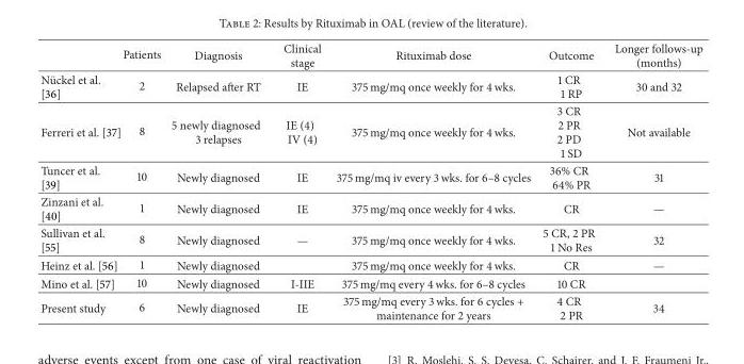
<table><thead><tr><td></td><td>Patients</td><td>Diagnosis</td><td>Clinical stage</td><td>Rituximab dose</td><td>Outcome</td><td>Longer follows-up (months)</td></tr></thead><tbody><tr><td>N¨uckel et al. [36]</td><td>2</td><td>Relapsed after RT</td><td>IE</td><td>375 mg/mq once weekly for 4 wks.</td><td>1 CR 1 RP</td><td>30 and 32</td></tr><tr><td>Ferreri et al. [37]</td><td>8</td><td>5 newly diagnosed 3 relapses</td><td>IE (4) IV (4)</td><td>375 mg/mq once weekly for 4 wks.</td><td>3 CR 2 PR 2 PD 1 SD</td><td>Not available</td></tr><tr><td>Tuncer et al. [39]</td><td>10</td><td>Newly diagnosed</td><td>IE</td><td>375 mg/mq iv every 3 wks. for 6–8 cycles</td><td>36% CR 64% PR</td><td>31</td></tr><tr><td>Zinzani et al. [40]</td><td>1</td><td>Newly diagnosed</td><td>IE</td><td>375 mg/mq once weekly for 4 wks.</td><td>CR</td><td>—</td></tr><tr><td>Sullivan et al. [55]</td><td>8</td><td>Newly diagnosed</td><td>—</td><td>375 mg/mq once weekly for 4 wks.</td><td>5 CR, 2 PR 1 No Res</td><td>32</td></tr><tr><td>Heinz et al. [56]</td><td>1</td><td>Newly diagnosed</td><td></td><td>375 mg/mq once weekly for 4 wks.</td><td>CR</td><td>—</td></tr><tr><td>Mino et al. [57]</td><td>10</td><td>Newly diagnosed</td><td>I-IIE</td><td>375 mg/mq every 4 wks. for 6–8 cycles</td><td>10 CR</td><td></td></tr><tr><td>Present study</td><td>6</td><td>Newly diagnosed</td><td>IE</td><td>375 mg/mq every 3 wks. for 6 cycles + maintenance for 2 years</td><td>4 CR 2 PR</td><td>34</td></tr></tbody></table>